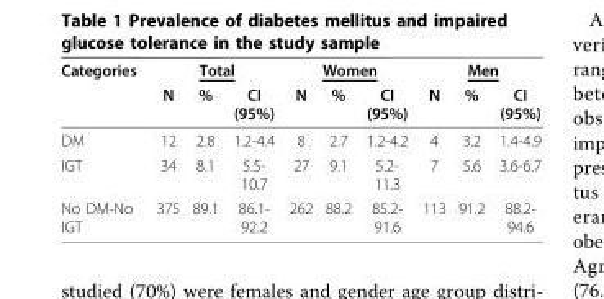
<table><thead><tr><td rowspan="2">Categories</td><td colspan="3">Total</td><td colspan="3">Women</td><td colspan="3">Men</td></tr><tr><td>N</td><td>%</td><td>CI (95%)</td><td>N</td><td>%</td><td>CI (95%)</td><td>N</td><td>%</td><td>CI (95%)</td></tr></thead><tbody><tr><td>DM</td><td>12</td><td>2.8</td><td>1.2-4.4</td><td>8</td><td>2.7</td><td>1.2-4.2</td><td>4</td><td>3.2</td><td>1.4-4.9</td></tr><tr><td>IGT</td><td>34</td><td>8.1</td><td>5.5- 10.7</td><td>27</td><td>9.1</td><td>5.2- 11.3</td><td>7</td><td>5.6</td><td>3.6-6.7</td></tr><tr><td>No DM-No IGT</td><td>375</td><td>89.1</td><td>86.1- 92.2</td><td>262</td><td>88.2</td><td>85.2- 91.6</td><td>113</td><td>91.2</td><td>88.2- 94.6</td></tr></tbody></table>